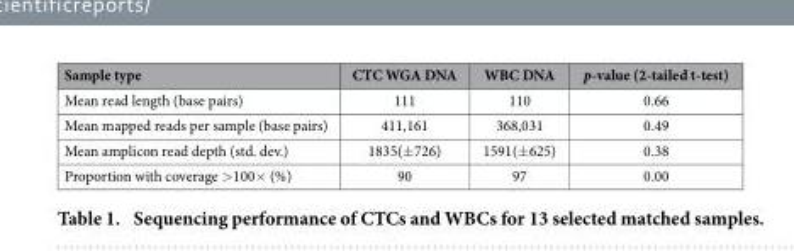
<table><thead><tr><td>Sample type</td><td>CTC WGA DNA</td><td>WBC DNA</td><td>p-value (2-tailed t-test)</td></tr></thead><tbody><tr><td>Mean read length (base pairs)</td><td>111</td><td>110</td><td>0.66</td></tr><tr><td>Mean mapped reads per sample (base pairs)</td><td>411,161</td><td>368,031</td><td>0.49</td></tr><tr><td>Mean amplicon read depth (std. dev.)</td><td>1835(± 726)</td><td>1591(± 625)</td><td>0.38</td></tr><tr><td>Proportion with coverage &gt; 100× (%)</td><td>90</td><td>97</td><td>0.00</td></tr></tbody></table>